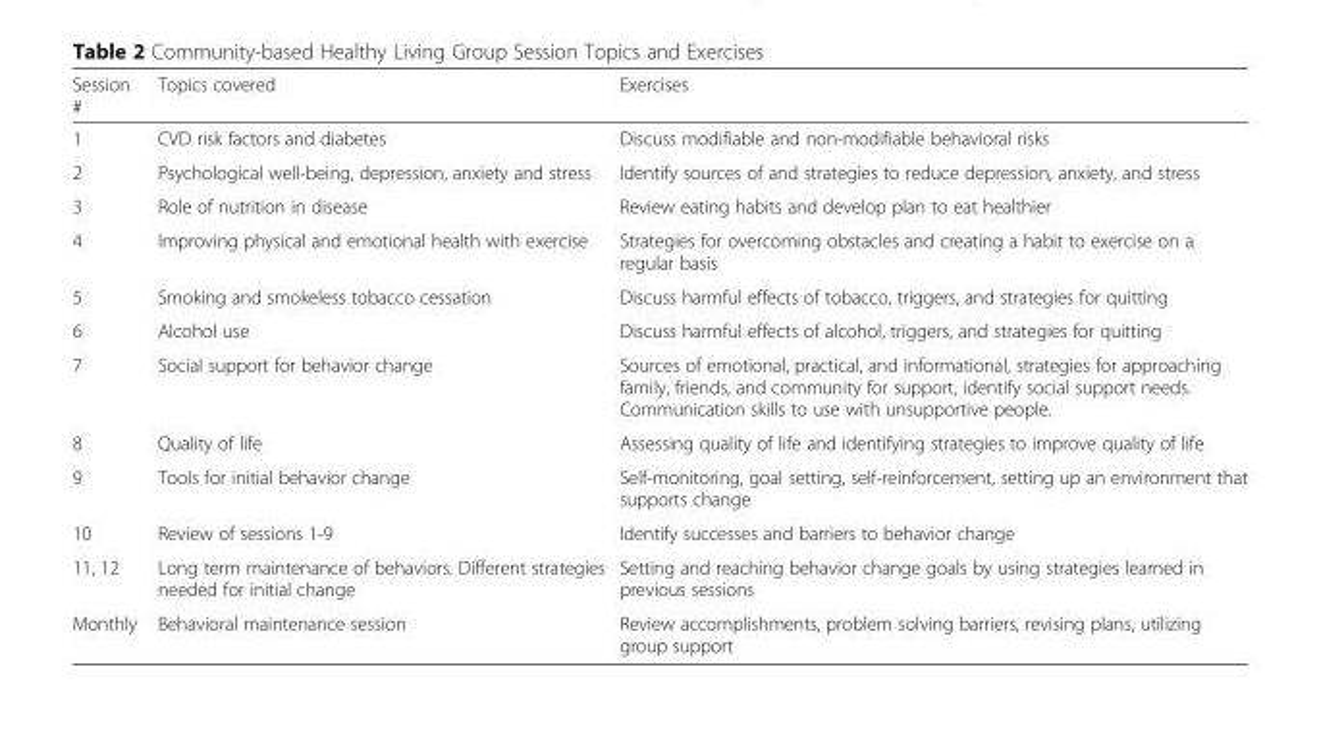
<table><thead><tr><td>Session #</td><td>Topics covered</td><td>Exercises</td></tr></thead><tbody><tr><td>1</td><td>CVD risk factors and diabetes</td><td>Discuss modifiable and non-modifiable behavioral risks</td></tr><tr><td>2</td><td>Psychological well-being, depression, anxiety and stress</td><td>Identify sources of and strategies to reduce depression, anxiety, and stress</td></tr><tr><td>3</td><td>Role of nutrition in disease</td><td>Review eating habits and develop plan to eat healthier</td></tr><tr><td>4</td><td>Improving physical and emotional health with exercise</td><td>Strategies for overcoming obstacles and creating a habit to exercise on a regular basis</td></tr><tr><td>5</td><td>Smoking and smokeless tobacco cessation</td><td>Discuss harmful effects of tobacco, triggers, and strategies for quitting</td></tr><tr><td>6</td><td>Alcohol use</td><td>Discuss harmful effects of alcohol, triggers, and strategies for quitting</td></tr><tr><td>7</td><td>Social support for behavior change</td><td>Sources of emotional, practical, and informational, strategies for approaching family, friends, and community for support, identify social support needs. Communication skills to use with unsupportive people.</td></tr><tr><td>8</td><td>Quality of life</td><td>Assessing quality of life and identifying strategies to improve quality of life</td></tr><tr><td>9</td><td>Tools for initial behavior change</td><td>Self-monitoring, goal setting, self-reinforcement, setting up an environment that supports change</td></tr><tr><td>10</td><td>Review of sessions 1-9</td><td>Identify successes and barriers to behavior change</td></tr><tr><td>11, 12</td><td>Long term maintenance of behaviors. Different strategies needed for initial change</td><td>Setting and reaching behavior change goals by using strategies learned in previous sessions</td></tr><tr><td>Monthly</td><td>Behavioral maintenance session</td><td>Review accomplishments, problem solving barriers, revising plans, utilizing group support</td></tr></tbody></table>